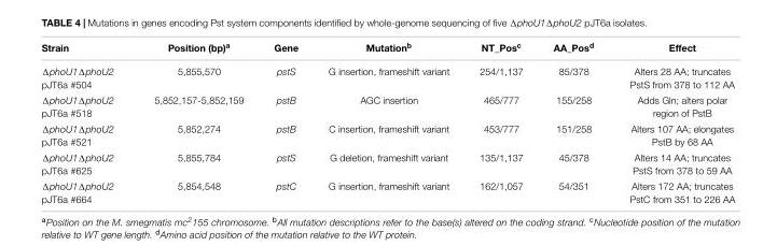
<table><thead><tr><td>Strain</td><td>Position (bp)<sup>a</sup></td><td>Gene</td><td>Mutation<sup>b</sup></td><td>NT_Pos<sup>c</sup></td><td>AA_Pos<sup>d</sup></td><td>Effect</td></tr></thead><tbody><tr><td>ΔphoU1ΔphoU2 pJT6a #504</td><td>5,855,570</td><td>pstS</td><td>G insertion, frameshift variant</td><td>254/1,137</td><td>85/378</td><td>Alters 28 AA; truncates PstS from 378 to 112 AA</td></tr><tr><td>ΔphoU1ΔphoU2 pJT6a #518</td><td>5,852,157-5,852,159</td><td>pstB</td><td>AGC insertion</td><td>465/777</td><td>155/258</td><td>Adds Gln; alters polar region of PstB</td></tr><tr><td>ΔphoU1ΔphoU2 pJT6a #521</td><td>5,852,274</td><td>pstB</td><td>C insertion, frameshift variant</td><td>453/777</td><td>151/258</td><td>Alters 107 AA; elongates PstB by 68 AA</td></tr><tr><td>ΔphoU1ΔphoU2 pJT6a #625</td><td>5,855,784</td><td>pstS</td><td>G deletion, frameshift variant</td><td>135/1,137</td><td>45/378</td><td>Alters 14 AA; truncates PstS from 378 to 59 AA</td></tr><tr><td>ΔphoU1ΔphoU2 pJT6a #664</td><td>5,854,548</td><td>pstC</td><td>G insertion, frameshift variant</td><td>162/1,057</td><td>54/351</td><td>Alters 172 AA; truncates PstC from 351 to 226 AA</td></tr></tbody></table>